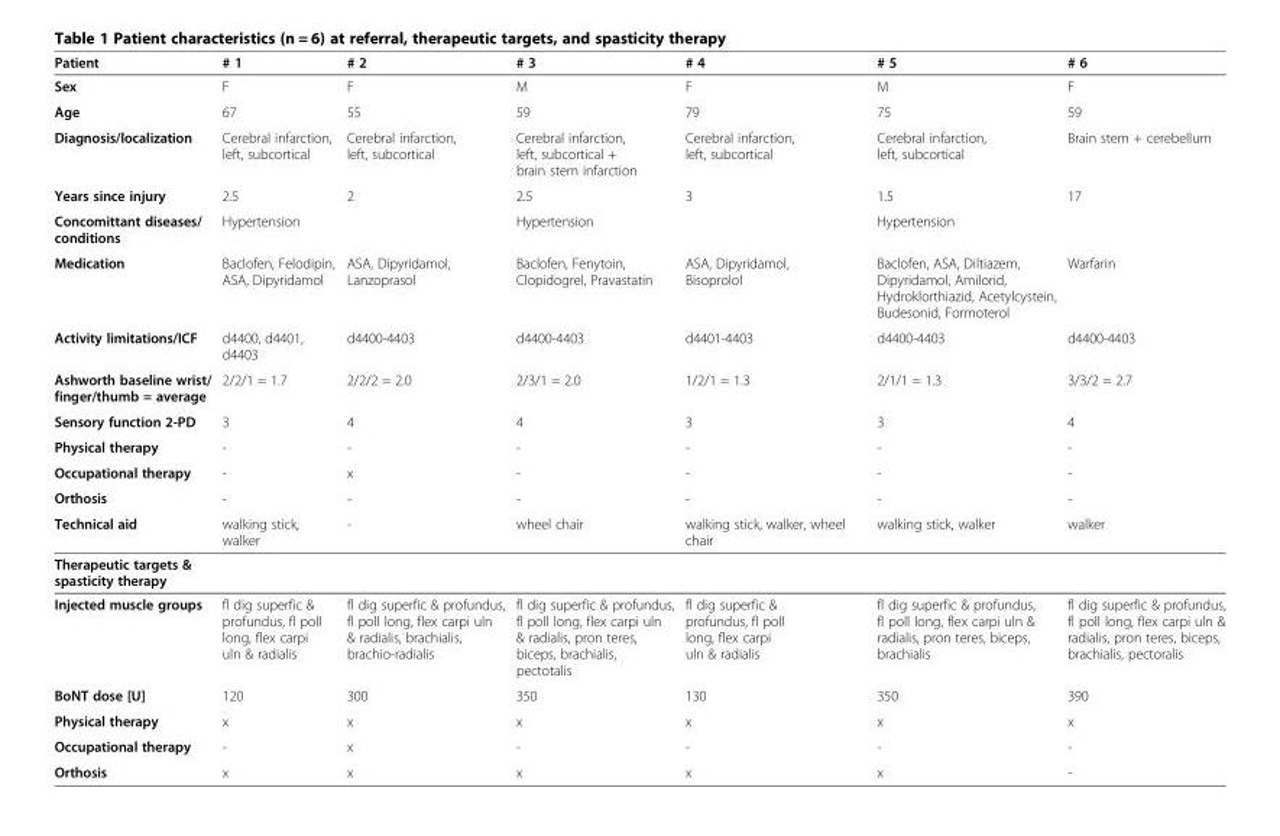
<table><thead><tr><td>Patient</td><td># 1</td><td># 2</td><td># 3</td><td># 4</td><td># 5</td><td># 6</td></tr></thead><tbody><tr><td>Sex</td><td>F</td><td>F</td><td>M</td><td>F</td><td>M</td><td>F</td></tr><tr><td>Age</td><td>67</td><td>55</td><td>59</td><td>79</td><td>75</td><td>59</td></tr><tr><td>Diagnosis/localization</td><td>Cerebral infarction, left, subcortical</td><td>Cerebral infarction, left, subcortical</td><td>Cerebral infarction, left, subcortical + brain stem infarction</td><td>Cerebral infarction, left, subcortical</td><td>Cerebral infarction, left, subcortical</td><td>Brain stem + cerebellum</td></tr><tr><td>Years since injury</td><td>2.5</td><td>2</td><td>2.5</td><td>3</td><td>1.5</td><td>17</td></tr><tr><td>Concomittant diseases/ conditions</td><td>Hypertension</td><td></td><td>Hypertension</td><td></td><td>Hypertension</td><td></td></tr><tr><td>Medication</td><td>Baclofen, Felodipin, ASA, Dipyridamol</td><td>ASA, Dipyridamol, Lanzoprasol</td><td>Baclofen, Fenytoin, Clopidogrel, Pravastatin</td><td>ASA, Dipyridamol, Bisoprolol</td><td>Baclofen, ASA, Diltiazem, Dipyridamol, Amilorid, Hydroklorthiazid, Acetylcystein, Budesonid, Formoterol</td><td>Warfarin</td></tr><tr><td>Activity limitations/ICF</td><td>d4400, d4401, d4403</td><td>d4400-4403</td><td>d4400-4403</td><td>d4401-4403</td><td>d4400-4403</td><td>d4400-4403</td></tr><tr><td>Ashworth baseline wrist/ finger/thumb = average</td><td>2/2/1 = 1.7</td><td>2/2/2 = 2.0</td><td>2/3/1 = 2.0</td><td>1/2/1 = 1.3</td><td>2/1/1 = 1.3</td><td>3/3/2 = 2.7</td></tr><tr><td>Sensory function 2-PD</td><td>3</td><td>4</td><td>4</td><td>3</td><td>3</td><td>4</td></tr><tr><td>Physical therapy</td><td>-</td><td>-</td><td>-</td><td>-</td><td>-</td><td>-</td></tr><tr><td>Occupational therapy</td><td>-</td><td>x</td><td>-</td><td>-</td><td>-</td><td>-</td></tr><tr><td>Orthosis</td><td>-</td><td>-</td><td>-</td><td>-</td><td>-</td><td>-</td></tr><tr><td>Technical aid</td><td>walking stick, walker</td><td>-</td><td>wheel chair</td><td>walking stick, walker, wheel chair</td><td>walking stick, walker</td><td>walker</td></tr><tr><td colspan="7">Therapeutic targets &amp; spasticity therapy</td></tr><tr><td>Injected muscle groups</td><td>fl dig superfic &amp; profundus, fl poll long, flex carpi uln &amp; radialis</td><td>fl dig superfic &amp; profundus, fl poll long, flex carpi uln &amp; radialis, brachialis, brachio-radialis</td><td>fl dig superfic &amp; profundus, fl poll long, flex carpi uln &amp; radialis, pron teres, biceps, brachialis, pectotalis</td><td>fl dig superfic &amp; profundus, fl poll long, flex carpi uln &amp; radialis</td><td>fl dig superfic &amp; profundus, fl poll long, flex carpi uln &amp; radialis, pron teres, biceps, brachialis</td><td>fl dig superfic &amp; profundus, fl poll long, flex carpi uln &amp; radialis, pron teres, biceps, brachialis, pectoralis</td></tr><tr><td>BoNT dose [U]</td><td>120</td><td>300</td><td>350</td><td>130</td><td>350</td><td>390</td></tr><tr><td>Physical therapy</td><td>x</td><td>x</td><td>x</td><td>x</td><td>x</td><td>x</td></tr><tr><td>Occupational therapy</td><td>-</td><td>x</td><td>-</td><td>-</td><td>-</td><td>-</td></tr><tr><td>Orthosis</td><td>x</td><td>x</td><td>x</td><td>x</td><td>x</td><td>-</td></tr></tbody></table>